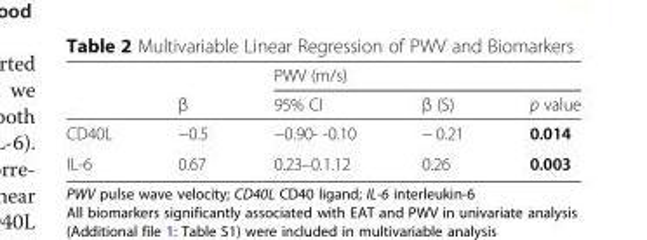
<table><thead><tr><td rowspan="2"></td><td rowspan="2">β</td><td colspan="3">PWV (m/s)</td></tr><tr><td>95% CI</td><td>β (S)</td><td>p value</td></tr></thead><tbody><tr><td>CD40L</td><td>−0.5</td><td>−0.90- -0.10</td><td>− 0.21</td><td>0.014</td></tr><tr><td>IL-6</td><td>0.67</td><td>0.23–0.1.12</td><td>0.26</td><td>0.003</td></tr></tbody></table>